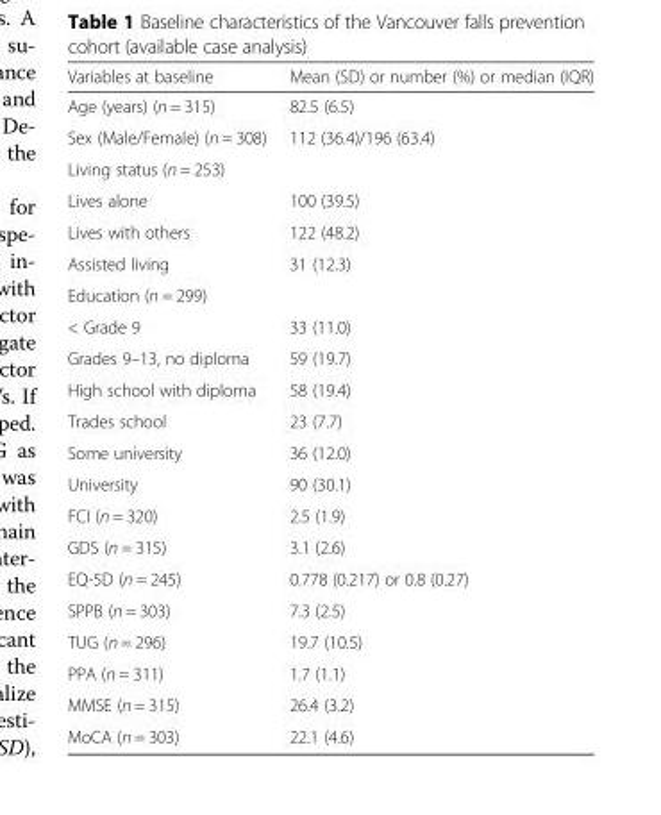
<table><thead><tr><td>Variables at baseline</td><td>Mean (SD) or number (%) or median (IQR)</td></tr></thead><tbody><tr><td>Age (years) (n = 315)</td><td>82.5 (6.5)</td></tr><tr><td>Sex (Male/Female) (n = 308)</td><td>112 (36.4)/196 (63.4)</td></tr><tr><td colspan="2">Living status (n = 253)</td></tr><tr><td>Lives alone</td><td>100 (39.5)</td></tr><tr><td>Lives with others</td><td>122 (48.2)</td></tr><tr><td>Assisted living</td><td>31 (12.3)</td></tr><tr><td colspan="2">Education (n = 299)</td></tr><tr><td>&lt; Grade 9</td><td>33 (11.0)</td></tr><tr><td>Grades 9–13, no diploma</td><td>59 (19.7)</td></tr><tr><td>High school with diploma</td><td>58 (19.4)</td></tr><tr><td>Trades school</td><td>23 (7.7)</td></tr><tr><td>Some university</td><td>36 (12.0)</td></tr><tr><td>University</td><td>90 (30.1)</td></tr><tr><td>FCI (n = 320)</td><td>2.5 (1.9)</td></tr><tr><td>GDS (n = 315)</td><td>3.1 (2.6)</td></tr><tr><td>EQ-5D (n = 245)</td><td>0.778 (0.217) or 0.8 (0.27)</td></tr><tr><td>SPPB (n = 303)</td><td>7.3 (2.5)</td></tr><tr><td>TUG (n = 296)</td><td>19.7 (10.5)</td></tr><tr><td>PPA (n = 311)</td><td>1.7 (1.1)</td></tr><tr><td>MMSE (n = 315)</td><td>26.4 (3.2)</td></tr><tr><td>MoCA (n = 303)</td><td>22.1 (4.6)</td></tr></tbody></table>